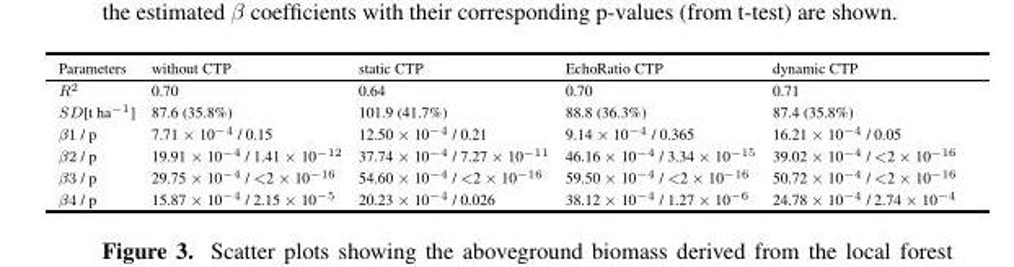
<table><thead><tr><td>Parameters</td><td>without CTP</td><td>static CTP</td><td>EchoRatio CTP</td><td>dynamic CTP</td></tr></thead><tbody><tr><td>R<sup>2</sup></td><td>0.70</td><td>0.64</td><td>0.70</td><td>0.71</td></tr><tr><td>SD[t ha<sup>−1</sup>]</td><td>87.6 (35.8%)</td><td>101.9 (41.7%)</td><td>88.8 (36.3%)</td><td>87.4 (35.8%)</td></tr><tr><td>β1 / p</td><td>7.71 × 10<sup>−4</sup> / 0.15</td><td>12.50 × 10<sup>−4</sup> / 0.21</td><td>9.14 × 10<sup>−4</sup> / 0.365</td><td>16.21 × 10<sup>−4</sup> / 0.05</td></tr><tr><td>β2 / p</td><td>19.91 × 10<sup>−4</sup> / 1.41 × 10<sup>−12</sup></td><td>37.74 × 10<sup>−4</sup> / 7.27 × 10<sup>−11</sup></td><td>46.16 × 10<sup>−4</sup> / 3.34 × 10<sup>−15</sup></td><td>39.02 × 10<sup>−4</sup> / &lt;2 × 10<sup>−16</sup></td></tr><tr><td>β3 / p</td><td>29.75 × 10<sup>−4</sup> / &lt;2 × 10<sup>−16</sup></td><td>54.60 × 10<sup>−4</sup> / &lt;2 × 10<sup>−16</sup></td><td>59.50 × 10<sup>−4</sup> / &lt;2 × 10<sup>−16</sup></td><td>50.72 × 10<sup>−4</sup> / &lt;2 × 10<sup>−16</sup></td></tr><tr><td>β4 / p</td><td>15.87 × 10<sup>−4</sup> / 2.15 × 10<sup>−5</sup></td><td>20.23 × 10<sup>−4</sup> / 0.026</td><td>38.12 × 10<sup>−4</sup> / 1.27 × 10<sup>−6</sup></td><td>24.78 × 10<sup>−4</sup> / 2.74 × 10<sup>−4</sup></td></tr></tbody></table>